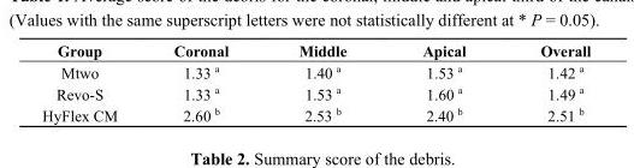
<table><thead><tr><td>Group</td><td>Coronal</td><td>Middle</td><td>Apical</td><td>Overall</td></tr></thead><tbody><tr><td>Mtwo</td><td>1.33 <sup>a</sup></td><td>1.40 <sup>a</sup></td><td>1.53 <sup>a</sup></td><td>1.42 <sup>a</sup></td></tr><tr><td>Revo-S</td><td>1.33 <sup>a</sup></td><td>1.53 <sup>a</sup></td><td>1.60 <sup>a</sup></td><td>1.49 <sup>a</sup></td></tr><tr><td>HyFlex CM</td><td>2.60 <sup>b</sup></td><td>2.53 <sup>b</sup></td><td>2.40 <sup>b</sup></td><td>2.51 <sup>b</sup></td></tr></tbody></table>